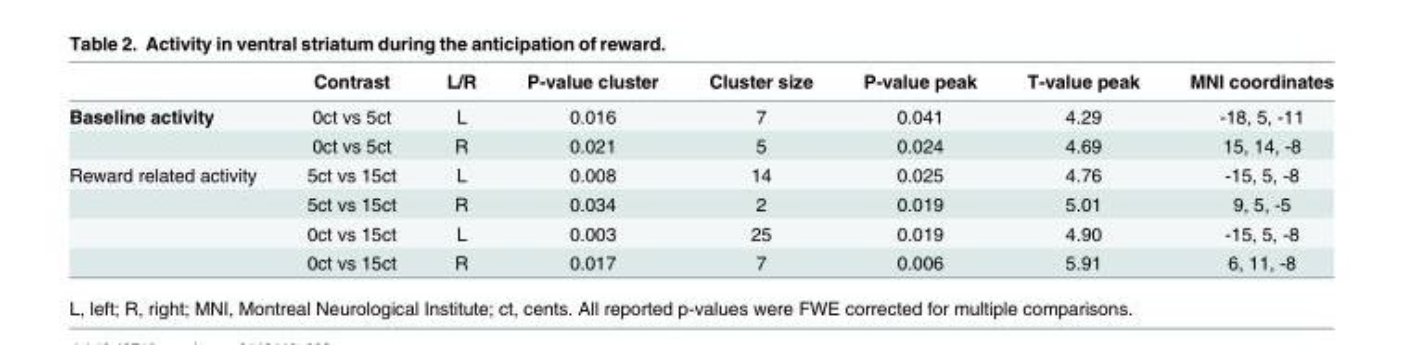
<table><thead><tr><td></td><td>Contrast</td><td>L/R</td><td>P-value cluster</td><td>Cluster size</td><td>P-value peak</td><td>T-value peak</td><td>MNI coordinates</td></tr></thead><tbody><tr><td rowspan="2">Baseline activity</td><td>0ct vs 5ct</td><td>L</td><td>0.016</td><td>7</td><td>0.041</td><td>4.29</td><td>-18, 5, -11</td></tr><tr><td>0ct vs 5ct</td><td>R</td><td>0.021</td><td>5</td><td>0.024</td><td>4.69</td><td>15, 14, -8</td></tr><tr><td rowspan="4">Reward related activity</td><td>5ct vs 15ct</td><td>L</td><td>0.008</td><td>14</td><td>0.025</td><td>4.76</td><td>-15, 5, -8</td></tr><tr><td>5ct vs 15ct</td><td>R</td><td>0.034</td><td>2</td><td>0.019</td><td>5.01</td><td>9, 5, -5</td></tr><tr><td>0ct vs 15ct</td><td>L</td><td>0.003</td><td>25</td><td>0.019</td><td>4.90</td><td>-15, 5, -8</td></tr><tr><td>0ct vs 15ct</td><td>R</td><td>0.017</td><td>7</td><td>0.006</td><td>5.91</td><td>6, 11, -8</td></tr></tbody></table>